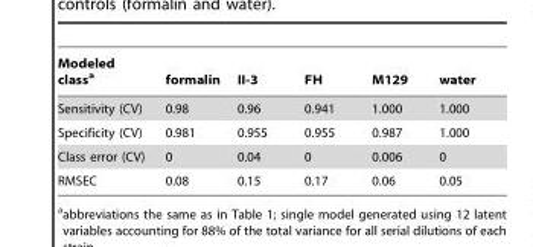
<table><thead><tr><td>Modeled class<sup>a</sup></td><td>formalin</td><td>II-3</td><td>FH</td><td>M129</td><td>water</td></tr></thead><tbody><tr><td>Sensitivity (CV)</td><td>0.98</td><td>0.96</td><td>0.941</td><td>1.000</td><td>1.000</td></tr><tr><td>Specificity (CV)</td><td>0.981</td><td>0.955</td><td>0.955</td><td>0.987</td><td>1.000</td></tr><tr><td>Class error (CV)</td><td>0</td><td>0.04</td><td>0</td><td>0.006</td><td>0</td></tr><tr><td>RMSEC</td><td>0.08</td><td>0.15</td><td>0.17</td><td>0.06</td><td>0.05</td></tr></tbody></table>